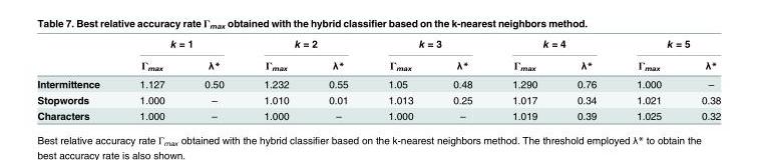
<table><thead><tr><td rowspan="2"></td><td colspan="2">k = 1</td><td colspan="2">k = 2</td><td colspan="2">k = 3</td><td colspan="2">k = 4</td><td colspan="2">k = 5</td></tr><tr><td>Γ<sub>max</sub></td><td>λ*</td><td>Γ<sub>max</sub></td><td>λ*</td><td>Γ<sub>max</sub></td><td>λ*</td><td>Γ<sub>max</sub></td><td>λ*</td><td>Γ<sub>max</sub></td><td>λ*</td></tr></thead><tbody><tr><td>Intermittence</td><td>1.127</td><td>0.50</td><td>1.232</td><td>0.55</td><td>1.05</td><td>0.48</td><td>1.290</td><td>0.76</td><td>1.000</td><td>–</td></tr><tr><td>Stopwords</td><td>1.000</td><td>–</td><td>1.010</td><td>0.01</td><td>1.013</td><td>0.25</td><td>1.017</td><td>0.34</td><td>1.021</td><td>0.38</td></tr><tr><td>Characters</td><td>1.000</td><td>–</td><td>1.000</td><td>–</td><td>1.000</td><td>–</td><td>1.019</td><td>0.39</td><td>1.025</td><td>0.32</td></tr></tbody></table>